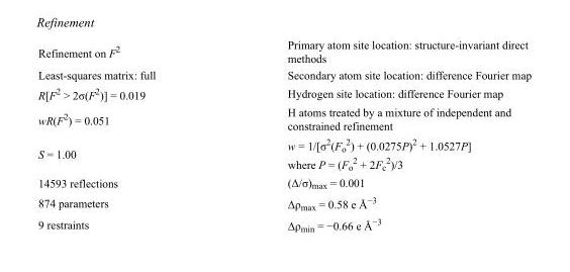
<table><tbody><tr><td>Refinement on F<sup>2</sup></td><td>Primary atom site location: structure-invariant direct methods</td></tr><tr><td>Least-squares matrix: full</td><td>Secondary atom site location: difference Fourier map</td></tr><tr><td>R[F<sup>2</sup> &gt; 2σ(F<sup>2</sup>)] = 0.019</td><td>Hydrogen site location: difference Fourier map</td></tr><tr><td>wR(F<sup>2</sup>) = 0.051</td><td>H atoms treated by a mixture of independent and constrained refinement</td></tr><tr><td>S = 1.00</td><td>w = 1/[σ<sup>2</sup>(F<sub>o</sub> <sup>2</sup>) + (0.0275P)<sup>2</sup> + 1.0527P] where P = (F<sub>o</sub> <sup>2</sup> + 2F<sub>c</sub> <sup>2</sup>)/3</td></tr><tr><td>14593 reflections</td><td>(Δ/σ)<sub>max</sub> = 0.001</td></tr><tr><td>874 parameters</td><td>Δρ<sub>max</sub> = 0.58 e Å<sup>−3</sup></td></tr><tr><td>9 restraints</td><td>Δρ<sub>min</sub> = −0.66 e Å<sup>−3</sup></td></tr></tbody></table>